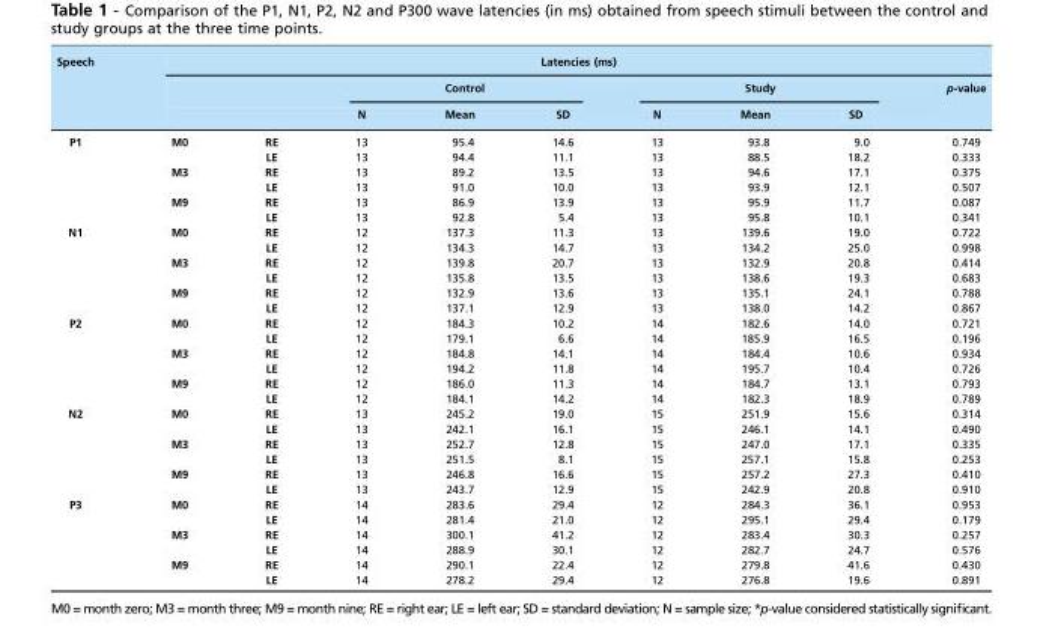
<table><thead><tr><td rowspan="3">Speech</td><td colspan="9">Latencies (ms)</td></tr><tr><td rowspan="2"></td><td rowspan="2"></td><td colspan="3">Control</td><td colspan="3">Study</td><td rowspan="2">p-value</td></tr><tr><td>N</td><td>Mean</td><td>SD</td><td>N</td><td>Mean</td><td>SD</td></tr></thead><tbody><tr><td rowspan="6">P1</td><td rowspan="2">M0</td><td>RE</td><td>13</td><td>95.4</td><td>14.6</td><td>13</td><td>93.8</td><td>9.0</td><td>0.749</td></tr><tr><td>LE</td><td>13</td><td>94.4</td><td>11.1</td><td>13</td><td>88.5</td><td>18.2</td><td>0.333</td></tr><tr><td rowspan="2">M3</td><td>RE</td><td>13</td><td>89.2</td><td>13.5</td><td>13</td><td>94.6</td><td>17.1</td><td>0.375</td></tr><tr><td>LE</td><td>13</td><td>91.0</td><td>10.0</td><td>13</td><td>93.9</td><td>12.1</td><td>0.507</td></tr><tr><td rowspan="2">M9</td><td>RE</td><td>13</td><td>86.9</td><td>13.9</td><td>13</td><td>95.9</td><td>11.7</td><td>0.087</td></tr><tr><td>LE</td><td>13</td><td>92.8</td><td>5.4</td><td>13</td><td>95.8</td><td>10.1</td><td>0.341</td></tr><tr><td rowspan="6">N1</td><td rowspan="2">M0</td><td>RE</td><td>12</td><td>137.3</td><td>11.3</td><td>13</td><td>139.6</td><td>19.0</td><td>0.722</td></tr><tr><td>LE</td><td>12</td><td>134.3</td><td>14.7</td><td>13</td><td>134.2</td><td>25.0</td><td>0.998</td></tr><tr><td rowspan="2">M3</td><td>RE</td><td>12</td><td>139.8</td><td>20.7</td><td>13</td><td>132.9</td><td>20.8</td><td>0.414</td></tr><tr><td>LE</td><td>12</td><td>135.8</td><td>13.5</td><td>13</td><td>138.6</td><td>19.3</td><td>0.683</td></tr><tr><td rowspan="2">M9</td><td>RE</td><td>12</td><td>132.9</td><td>13.6</td><td>13</td><td>135.1</td><td>24.1</td><td>0.788</td></tr><tr><td>LE</td><td>12</td><td>137.1</td><td>12.9</td><td>13</td><td>138.0</td><td>14.2</td><td>0.867</td></tr><tr><td rowspan="6">P2</td><td rowspan="2">M0</td><td>RE</td><td>12</td><td>184.3</td><td>10.2</td><td>14</td><td>182.6</td><td>14.0</td><td>0.721</td></tr><tr><td>LE</td><td>12</td><td>179.1</td><td>6.6</td><td>14</td><td>185.9</td><td>16.5</td><td>0.196</td></tr><tr><td rowspan="2">M3</td><td>RE</td><td>12</td><td>184.8</td><td>14.1</td><td>14</td><td>184.4</td><td>10.6</td><td>0.934</td></tr><tr><td>LE</td><td>12</td><td>194.2</td><td>11.8</td><td>14</td><td>195.7</td><td>10.4</td><td>0.726</td></tr><tr><td rowspan="2">M9</td><td>RE</td><td>12</td><td>186.0</td><td>11.3</td><td>14</td><td>184.7</td><td>13.1</td><td>0.793</td></tr><tr><td>LE</td><td>12</td><td>184.1</td><td>14.2</td><td>14</td><td>182.3</td><td>18.9</td><td>0.789</td></tr><tr><td rowspan="6">N2</td><td rowspan="2">M0</td><td>RE</td><td>13</td><td>245.2</td><td>19.0</td><td>15</td><td>251.9</td><td>15.6</td><td>0.314</td></tr><tr><td>LE</td><td>13</td><td>242.1</td><td>16.1</td><td>15</td><td>246.1</td><td>14.1</td><td>0.490</td></tr><tr><td rowspan="2">M3</td><td>RE</td><td>13</td><td>252.7</td><td>12.8</td><td>15</td><td>247.0</td><td>17.1</td><td>0.335</td></tr><tr><td>LE</td><td>13</td><td>251.5</td><td>8.1</td><td>15</td><td>257.1</td><td>15.8</td><td>0.253</td></tr><tr><td rowspan="2">M9</td><td>RE</td><td>13</td><td>246.8</td><td>16.6</td><td>15</td><td>257.2</td><td>27.3</td><td>0.410</td></tr><tr><td>LE</td><td>13</td><td>243.7</td><td>12.9</td><td>15</td><td>242.9</td><td>20.8</td><td>0.910</td></tr><tr><td rowspan="6">P3</td><td rowspan="2">M0</td><td>RE</td><td>14</td><td>283.6</td><td>29.4</td><td>12</td><td>284.3</td><td>36.1</td><td>0.953</td></tr><tr><td>LE</td><td>14</td><td>281.4</td><td>21.0</td><td>12</td><td>295.1</td><td>29.4</td><td>0.179</td></tr><tr><td rowspan="2">M3</td><td>RE</td><td>14</td><td>300.1</td><td>41.2</td><td>12</td><td>283.4</td><td>30.3</td><td>0.257</td></tr><tr><td>LE</td><td>14</td><td>288.9</td><td>30.1</td><td>12</td><td>282.7</td><td>24.7</td><td>0.576</td></tr><tr><td rowspan="2">M9</td><td>RE</td><td>14</td><td>290.1</td><td>22.4</td><td>12</td><td>279.8</td><td>41.6</td><td>0.430</td></tr><tr><td>LE</td><td>14</td><td>278.2</td><td>29.4</td><td>12</td><td>276.8</td><td>19.6</td><td>0.891</td></tr></tbody></table>